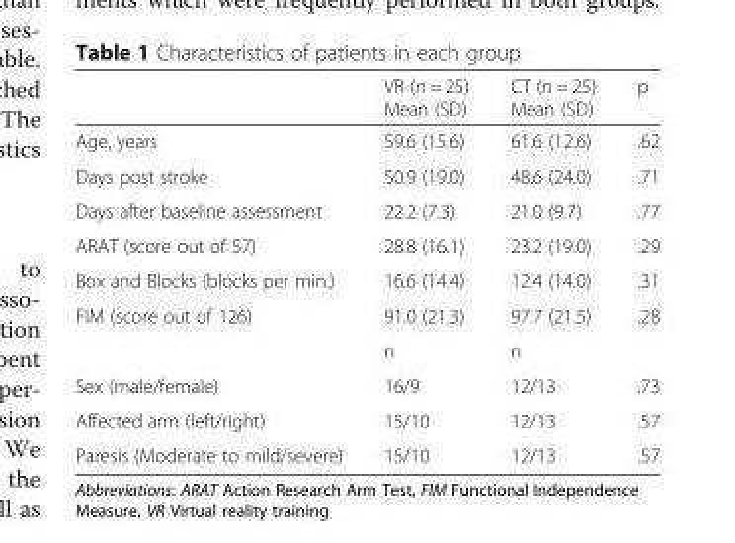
<table><thead><tr><td></td><td>VR (n = 25) Mean (SD)</td><td>CT (n = 25) Mean (SD)</td><td>p</td></tr></thead><tbody><tr><td>Age, years</td><td>59.6 (15.6)</td><td>61.6 (12.6)</td><td>.62</td></tr><tr><td>Days post stroke</td><td>50.9 (19.0)</td><td>48.6 (24.0)</td><td>.71</td></tr><tr><td>Days after baseline assessment</td><td>22.2 (7.3)</td><td>21.0 (9.7)</td><td>.77</td></tr><tr><td>ARAT (score out of 57)</td><td>28.8 (16.1)</td><td>23.2 (19.0)</td><td>.29</td></tr><tr><td>Box and Blocks (blocks per min.)</td><td>16.6 (14.4)</td><td>12.4 (14.0)</td><td>.31</td></tr><tr><td rowspan="2">FIM (score out of 126)</td><td>91.0 (21.3)</td><td>97.7 (21.5)</td><td>.28</td></tr><tr><td>n</td><td>n</td><td></td></tr><tr><td>Sex (male/female)</td><td>16/9</td><td>12/13</td><td>.73</td></tr><tr><td>Affected arm (left/right)</td><td>15/10</td><td>12/13</td><td>.57</td></tr><tr><td>Paresis (Moderate to mild/severe)</td><td>15/10</td><td>12/13</td><td>.57</td></tr></tbody></table>